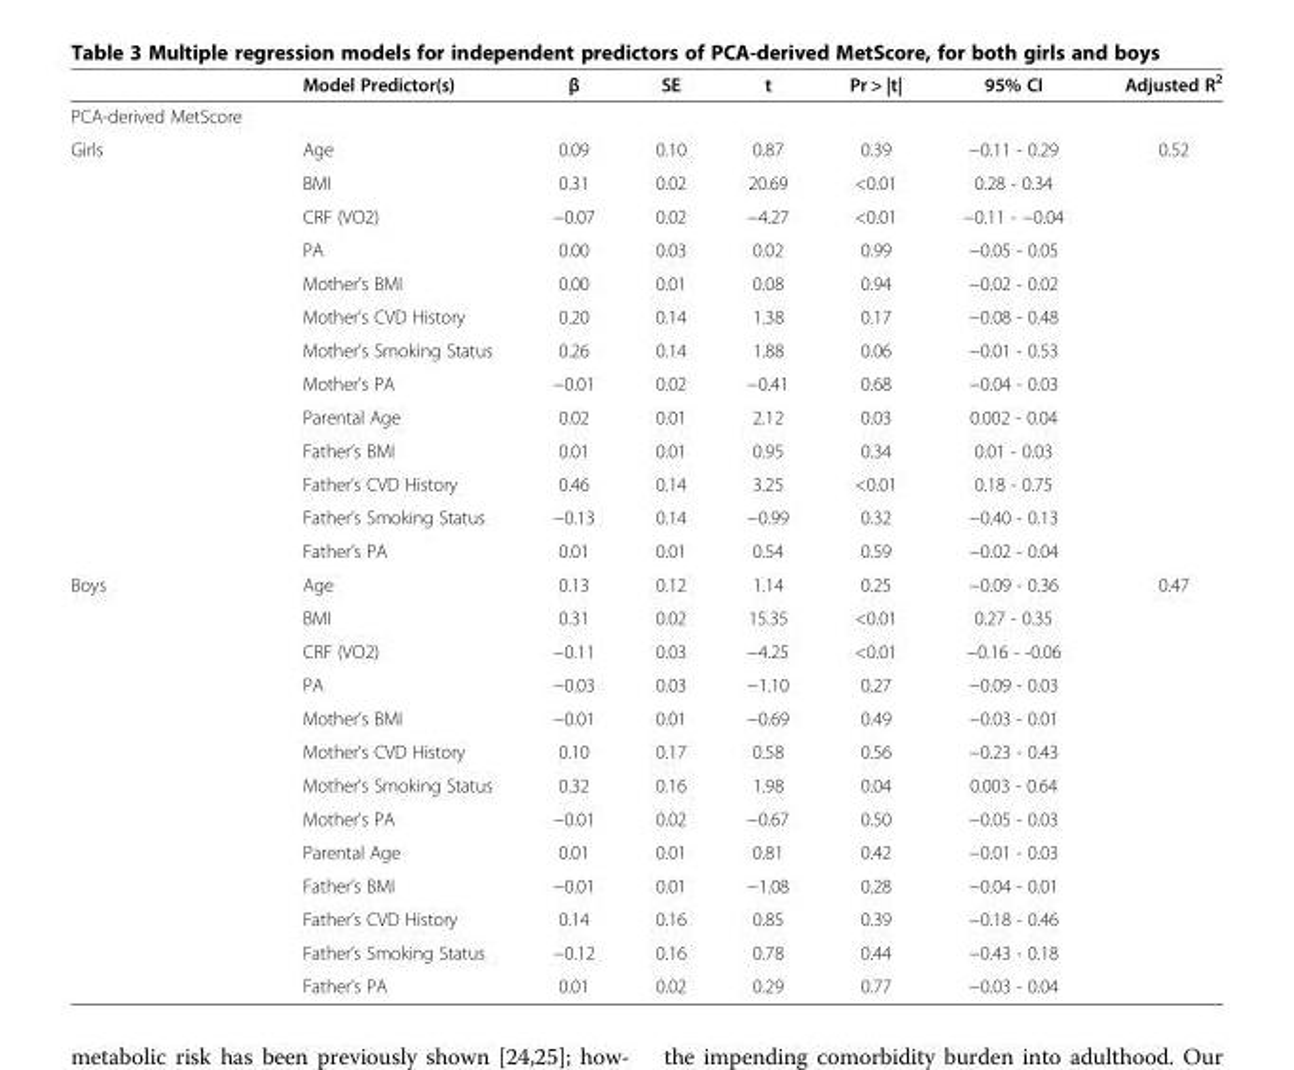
<table><thead><tr><td></td><td>Model Predictor(s)</td><td>β</td><td>SE</td><td>t</td><td>Pr &gt; |t|</td><td>95% CI</td><td>Adjusted R<sup>2</sup></td></tr></thead><tbody><tr><td colspan="8">PCA-derived MetScore</td></tr><tr><td rowspan="13">Girls</td><td>Age</td><td>0.09</td><td>0.10</td><td>0.87</td><td>0.39</td><td>−0.11 - 0.29</td><td>0.52</td></tr><tr><td>BMI</td><td>0.31</td><td>0.02</td><td>20.69</td><td>&lt;0.01</td><td>0.28 - 0.34</td><td></td></tr><tr><td>CRF (VO2)</td><td>−0.07</td><td>0.02</td><td>−4.27</td><td>&lt;0.01</td><td>−0.11 - −0.04</td><td></td></tr><tr><td>PA</td><td>0.00</td><td>0.03</td><td>0.02</td><td>0.99</td><td>−0.05 - 0.05</td><td></td></tr><tr><td>Mother’s BMI</td><td>0.00</td><td>0.01</td><td>0.08</td><td>0.94</td><td>−0.02 - 0.02</td><td></td></tr><tr><td>Mother’s CVD History</td><td>0.20</td><td>0.14</td><td>1.38</td><td>0.17</td><td>−0.08 - 0.48</td><td></td></tr><tr><td>Mother’s Smoking Status</td><td>0.26</td><td>0.14</td><td>1.88</td><td>0.06</td><td>−0.01 - 0.53</td><td></td></tr><tr><td>Mother’s PA</td><td>−0.01</td><td>0.02</td><td>−0.41</td><td>0.68</td><td>−0.04 - 0.03</td><td></td></tr><tr><td>Parental Age</td><td>0.02</td><td>0.01</td><td>2.12</td><td>0.03</td><td>0.002 - 0.04</td><td></td></tr><tr><td>Father’s BMI</td><td>0.01</td><td>0.01</td><td>0.95</td><td>0.34</td><td>0.01 - 0.03</td><td></td></tr><tr><td>Father’s CVD History</td><td>0.46</td><td>0.14</td><td>3.25</td><td>&lt;0.01</td><td>0.18 - 0.75</td><td></td></tr><tr><td>Father’s Smoking Status</td><td>−0.13</td><td>0.14</td><td>−0.99</td><td>0.32</td><td>−0.40 - 0.13</td><td></td></tr><tr><td>Father’s PA</td><td>0.01</td><td>0.01</td><td>0.54</td><td>0.59</td><td>−0.02 - 0.04</td><td></td></tr><tr><td rowspan="13">Boys</td><td>Age</td><td>0.13</td><td>0.12</td><td>1.14</td><td>0.25</td><td>−0.09 - 0.36</td><td>0.47</td></tr><tr><td>BMI</td><td>0.31</td><td>0.02</td><td>15.35</td><td>&lt;0.01</td><td>0.27 - 0.35</td><td></td></tr><tr><td>CRF (VO2)</td><td>−0.11</td><td>0.03</td><td>−4.25</td><td>&lt;0.01</td><td>−0.16 - -0.06</td><td></td></tr><tr><td>PA</td><td>−0.03</td><td>0.03</td><td>−1.10</td><td>0.27</td><td>−0.09 - 0.03</td><td></td></tr><tr><td>Mother’s BMI</td><td>−0.01</td><td>0.01</td><td>−0.69</td><td>0.49</td><td>−0.03 - 0.01</td><td></td></tr><tr><td>Mother’s CVD History</td><td>0.10</td><td>0.17</td><td>0.58</td><td>0.56</td><td>−0.23 - 0.43</td><td></td></tr><tr><td>Mother’s Smoking Status</td><td>0.32</td><td>0.16</td><td>1.98</td><td>0.04</td><td>0.003 - 0.64</td><td></td></tr><tr><td>Mother’s PA</td><td>−0.01</td><td>0.02</td><td>−0.67</td><td>0.50</td><td>−0.05 - 0.03</td><td></td></tr><tr><td>Parental Age</td><td>0.01</td><td>0.01</td><td>0.81</td><td>0.42</td><td>−0.01 - 0.03</td><td></td></tr><tr><td>Father’s BMI</td><td>−0.01</td><td>0.01</td><td>−1.08</td><td>0.28</td><td>−0.04 - 0.01</td><td></td></tr><tr><td>Father’s CVD History</td><td>0.14</td><td>0.16</td><td>0.85</td><td>0.39</td><td>−0.18 - 0.46</td><td></td></tr><tr><td>Father’s Smoking Status</td><td>−0.12</td><td>0.16</td><td>0.78</td><td>0.44</td><td>−0.43 - 0.18</td><td></td></tr><tr><td>Father’s PA</td><td>0.01</td><td>0.02</td><td>0.29</td><td>0.77</td><td>−0.03 - 0.04</td><td></td></tr></tbody></table>